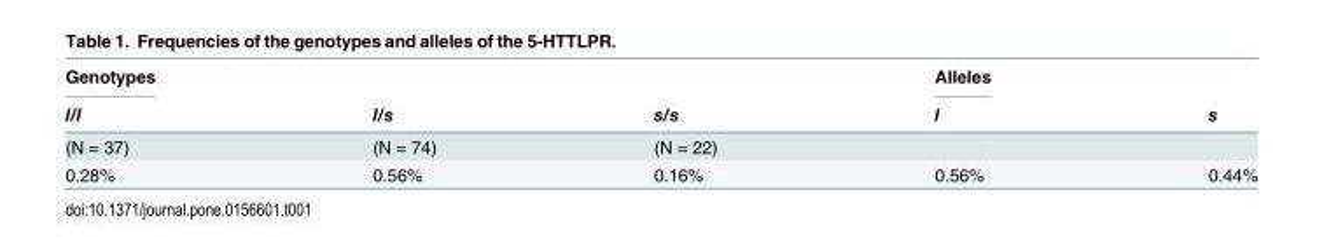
<table><thead><tr><td rowspan="2">Genotypes l/l</td><td rowspan="2">l/s</td><td rowspan="2">s/s</td><td rowspan="2">Alleles l</td><td rowspan="2">s</td></tr><tr></tr></thead><tbody><tr><td>(N = 37)</td><td>(N = 74)</td><td>(N = 22)</td><td></td><td></td></tr><tr><td>0.28%</td><td>0.56%</td><td>0.16%</td><td>0.56%</td><td>0.44%</td></tr></tbody></table>